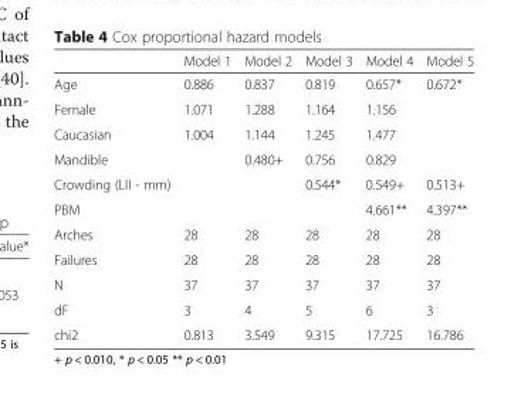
<table><thead><tr><td></td><td>Model 1</td><td>Model 2</td><td>Model 3</td><td>Model 4</td><td>Model 5</td></tr></thead><tbody><tr><td>Age</td><td>0.886</td><td>0.837</td><td>0.819</td><td>0.657*</td><td>0.672*</td></tr><tr><td>Female</td><td>1.071</td><td>1.288</td><td>1.164</td><td>1.156</td><td></td></tr><tr><td>Caucasian</td><td>1.004</td><td>1.144</td><td>1.245</td><td>1.477</td><td></td></tr><tr><td>Mandible</td><td></td><td>0.480+</td><td>0.756</td><td>0.829</td><td></td></tr><tr><td>Crowding (LII - mm)</td><td></td><td></td><td>0.544*</td><td>0.549+</td><td>0.513+</td></tr><tr><td>PBM</td><td></td><td></td><td></td><td>4.661**</td><td>4.397**</td></tr><tr><td>Arches</td><td>28</td><td>28</td><td>28</td><td>28</td><td>28</td></tr><tr><td>Failures</td><td>28</td><td>28</td><td>28</td><td>28</td><td>28</td></tr><tr><td>N</td><td>37</td><td>37</td><td>37</td><td>37</td><td>37</td></tr><tr><td>dF</td><td>3</td><td>4</td><td>5</td><td>6</td><td>3</td></tr><tr><td>chi2</td><td>0.813</td><td>3.549</td><td>9.315</td><td>17.725</td><td>16.786</td></tr></tbody></table>